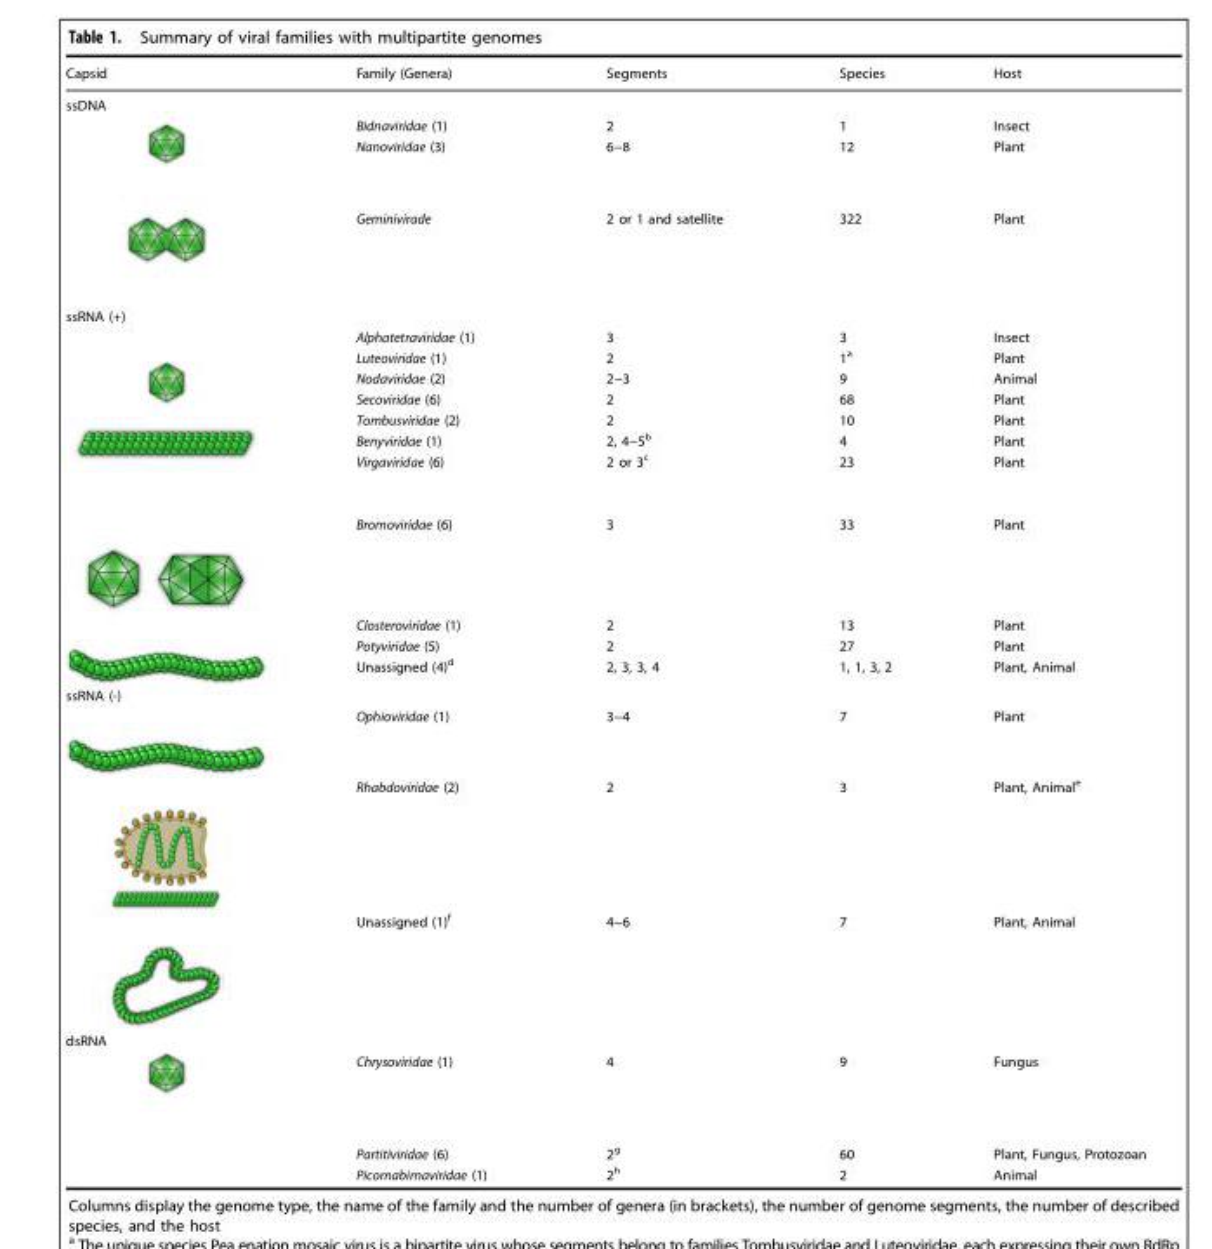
<table><thead><tr><td>Capsid</td><td>Family (Genera)</td><td>Segments</td><td>Species</td><td>Host</td></tr></thead><tbody><tr><td colspan="5">ssDNA</td></tr><tr><td rowspan="2"></td><td>Bidnaviridae (1)</td><td>2</td><td>1</td><td>Insect</td></tr><tr><td>Nanoviridae (3)</td><td>6−8</td><td>12</td><td>Plant</td></tr><tr><td></td><td>Geminivirade</td><td>2 or 1 and satellite</td><td>322</td><td>Plant</td></tr><tr><td colspan="5">ssRNA (+)</td></tr><tr><td rowspan="5"></td><td>Alphatetraviridae (1)</td><td>3</td><td>3</td><td>Insect</td></tr><tr><td>Luteoviridae (1)</td><td>2</td><td>1<sup>a</sup></td><td>Plant</td></tr><tr><td>Nodaviridae (2)</td><td>2−3</td><td>9</td><td>Animal</td></tr><tr><td>Secoviridae (6)</td><td>2</td><td>68</td><td>Plant</td></tr><tr><td>Tombusviridae (2)</td><td>2</td><td>10</td><td>Plant</td></tr><tr><td rowspan="2"></td><td>Benyviridae (1)</td><td>2, 4−5<sup>b</sup></td><td>4</td><td>Plant</td></tr><tr><td>Virgaviridae (6)</td><td>2 or 3<sup>c</sup></td><td>23</td><td>Plant</td></tr><tr><td></td><td>Bromoviridae (6)</td><td>3</td><td>33</td><td>Plant</td></tr><tr><td rowspan="3"></td><td>Closteroviridae (1)</td><td>2</td><td>13</td><td>Plant</td></tr><tr><td>Potyviridae (5)</td><td>2</td><td>27</td><td>Plant</td></tr><tr><td>Unassigned (4)<sup>d</sup></td><td>2, 3, 3, 4</td><td>1, 1, 3, 2</td><td>Plant, Animal</td></tr><tr><td colspan="5">ssRNA (-)</td></tr><tr><td></td><td>Ophioviridae (1)</td><td>3−4</td><td>7</td><td>Plant</td></tr><tr><td></td><td>Rhabdoviridae (2)</td><td>2</td><td>3</td><td>Plant, Animal<sup>e</sup></td></tr><tr><td></td><td>Unassigned (1)<sup>f</sup></td><td>4−6</td><td>7</td><td>Plant, Animal</td></tr><tr><td colspan="5">dsRNA</td></tr><tr><td></td><td>Chrysoviridae (1)</td><td>4</td><td>9</td><td>Fungus</td></tr><tr><td></td><td>Partitiviridae (6)</td><td>2<sup>g</sup></td><td>60</td><td>Plant, Fungus, Protozoan</td></tr><tr><td></td><td>Picornabirnaviridae (1)</td><td>2<sup>h</sup></td><td>2</td><td>Animal</td></tr></tbody></table>